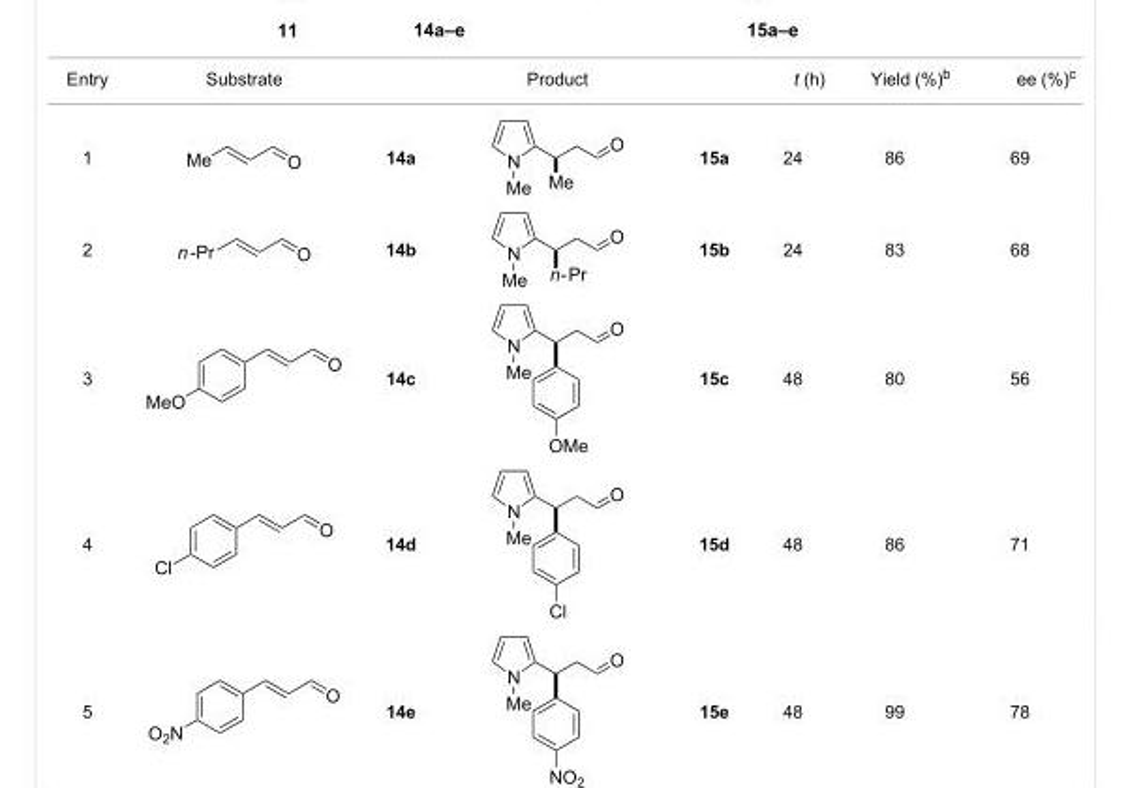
<table><tbody><tr><td>Entry</td><td>Substrate</td><td></td><td>Product</td><td></td><td>t (h)</td><td>Yield (%)<sup>b</sup></td><td>ee (%)<sup>c</sup></td></tr><tr><td>1</td><td></td><td>14a</td><td></td><td>15a</td><td>24</td><td>86</td><td>69</td></tr><tr><td>2</td><td></td><td>14b</td><td></td><td>15b</td><td>24</td><td>83</td><td>68</td></tr><tr><td>3</td><td></td><td>14c</td><td></td><td>15c</td><td>48</td><td>80</td><td>56</td></tr><tr><td>4</td><td></td><td>14d</td><td></td><td>15d</td><td>48</td><td>86</td><td>71</td></tr><tr><td>5</td><td></td><td>14e</td><td></td><td>15e</td><td>48</td><td>99</td><td>78</td></tr></tbody></table>